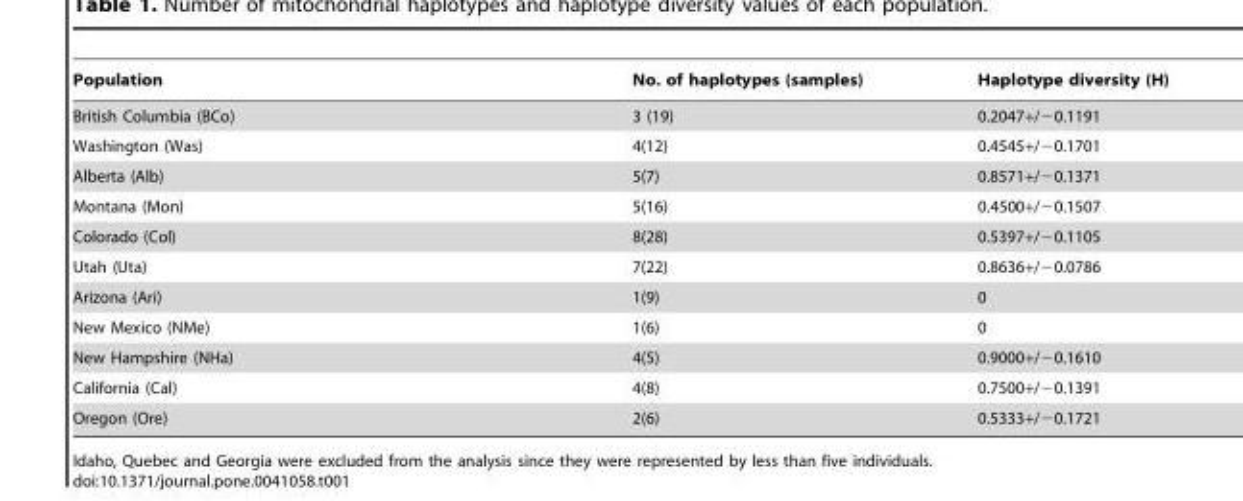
<table><thead><tr><td>Population</td><td>No. of haplotypes (samples)</td><td>Haplotype diversity (H)</td></tr></thead><tbody><tr><td>British Columbia (BCo)</td><td>3 (19)</td><td>0.2047+/−0.1191</td></tr><tr><td>Washington (Was)</td><td>4(12)</td><td>0.4545+/−0.1701</td></tr><tr><td>Alberta (Alb)</td><td>5(7)</td><td>0.8571+/−0.1371</td></tr><tr><td>Montana (Mon)</td><td>5(16)</td><td>0.4500+/−0.1507</td></tr><tr><td>Colorado (Col)</td><td>8(28)</td><td>0.5397+/−0.1105</td></tr><tr><td>Utah (Uta)</td><td>7(22)</td><td>0.8636+/−0.0786</td></tr><tr><td>Arizona (Ari)</td><td>1(9)</td><td>0</td></tr><tr><td>New Mexico (NMe)</td><td>1(6)</td><td>0</td></tr><tr><td>New Hampshire (NHa)</td><td>4(5)</td><td>0.9000+/−0.1610</td></tr><tr><td>California (Cal)</td><td>4(8)</td><td>0.7500+/−0.1391</td></tr><tr><td>Oregon (Ore)</td><td>2(6)</td><td>0.5333+/−0.1721</td></tr></tbody></table>